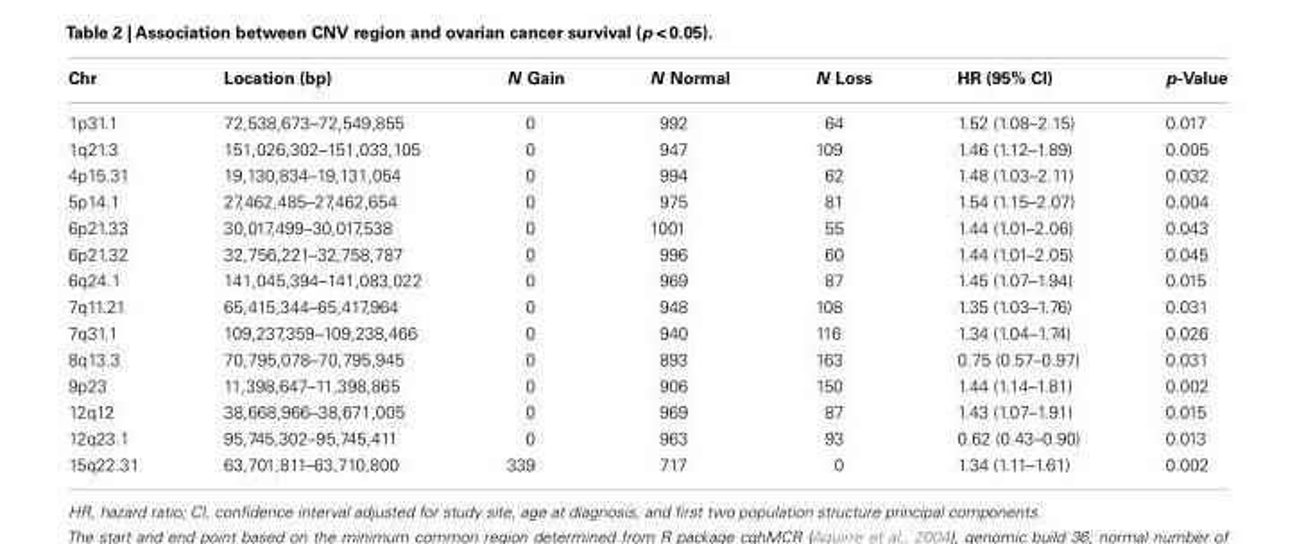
<table><thead><tr><td>Chr</td><td>Location (bp)</td><td>N Gain</td><td>N Normal</td><td>N Loss</td><td>HR (95% CI)</td><td>p-Value</td></tr></thead><tbody><tr><td>1p31.1</td><td>72,538,673–72,549,855</td><td>0</td><td>992</td><td>64</td><td>1.52 (1.08–2.15)</td><td>0.017</td></tr><tr><td>1q21.3</td><td>151,026,302–151,033,105</td><td>0</td><td>947</td><td>109</td><td>1.46 (1.12–1.89)</td><td>0.005</td></tr><tr><td>4p15.31</td><td>19,130,834–19,131,054</td><td>0</td><td>994</td><td>62</td><td>1.48 (1.03–2.11)</td><td>0.032</td></tr><tr><td>5p14.1</td><td>27,462,485–27,462,654</td><td>0</td><td>975</td><td>81</td><td>1.54 (1.15–2.07)</td><td>0.004</td></tr><tr><td>6p21.33</td><td>30,017,499–30,017,538</td><td>0</td><td>1001</td><td>55</td><td>1.44 (1.01–2.06)</td><td>0.043</td></tr><tr><td>6p21.32</td><td>32,756,221–32,758,787</td><td>0</td><td>996</td><td>60</td><td>1.44 (1.01–2.05)</td><td>0.045</td></tr><tr><td>6q24.1</td><td>141,045,394–141,083,022</td><td>0</td><td>969</td><td>87</td><td>1.45 (1.07–1.94)</td><td>0.015</td></tr><tr><td>7q11.21</td><td>65,415,344–65,417,964</td><td>0</td><td>948</td><td>108</td><td>1.35 (1.03–1.76)</td><td>0.031</td></tr><tr><td>7q31.1</td><td>109,237,359–109,238,466</td><td>0</td><td>940</td><td>116</td><td>1.34 (1.04–1.74)</td><td>0.026</td></tr><tr><td>8q13.3</td><td>70,795,078–70,795,945</td><td>0</td><td>893</td><td>163</td><td>0.75 (0.57–0.97)</td><td>0.031</td></tr><tr><td>9p23</td><td>11,398,647–11,398,865</td><td>0</td><td>906</td><td>150</td><td>1.44 (1.14–1.81)</td><td>0.002</td></tr><tr><td>12q12</td><td>38,668,966–38,671,005</td><td>0</td><td>969</td><td>87</td><td>1.43 (1.07–1.91)</td><td>0.015</td></tr><tr><td>12q23.1</td><td>95,745,302–95,745,411</td><td>0</td><td>963</td><td>93</td><td>0.62 (0.43–0.90)</td><td>0.013</td></tr><tr><td>15q22.31</td><td>63,701,811–63,710,800</td><td>339</td><td>717</td><td>0</td><td>1.34 (1.11–1.61)</td><td>0.002</td></tr></tbody></table>